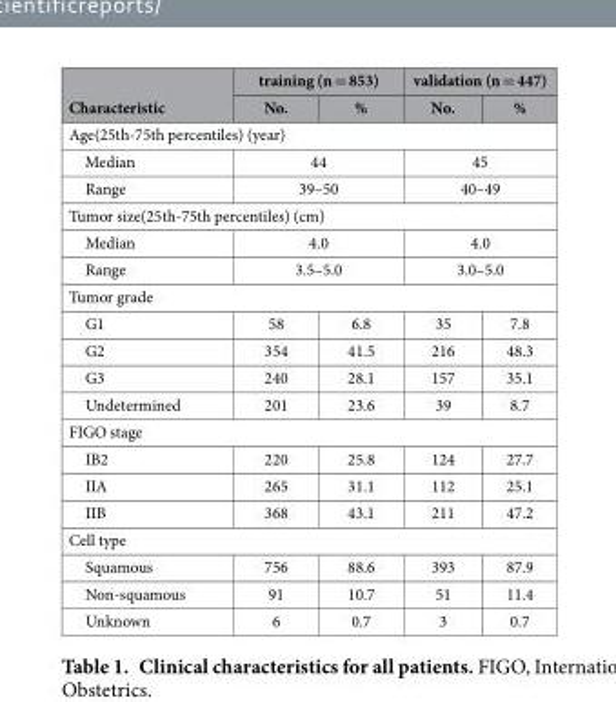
<table><thead><tr><td rowspan="2">Characteristic</td><td colspan="2">training (n = 853)</td><td colspan="2">validation (n = 447)</td></tr><tr><td>No.</td><td>%</td><td>No.</td><td>%</td></tr></thead><tbody><tr><td colspan="5">Age(25th-75th percentiles) (year)</td></tr><tr><td>Median</td><td colspan="2">44</td><td colspan="2">45</td></tr><tr><td>Range</td><td colspan="2">39–50</td><td colspan="2">40–49</td></tr><tr><td colspan="5">Tumor size(25th-75th percentiles) (cm)</td></tr><tr><td>Median</td><td colspan="2">4.0</td><td colspan="2">4.0</td></tr><tr><td>Range</td><td colspan="2">3.5–5.0</td><td colspan="2">3.0–5.0</td></tr><tr><td colspan="5">Tumor grade</td></tr><tr><td>G1</td><td>58</td><td>6.8</td><td>35</td><td>7.8</td></tr><tr><td>G2</td><td>354</td><td>41.5</td><td>216</td><td>48.3</td></tr><tr><td>G3</td><td>240</td><td>28.1</td><td>157</td><td>35.1</td></tr><tr><td>Undetermined</td><td>201</td><td>23.6</td><td>39</td><td>8.7</td></tr><tr><td colspan="5">FIGO stage</td></tr><tr><td>IB2</td><td>220</td><td>25.8</td><td>124</td><td>27.7</td></tr><tr><td>IIA</td><td>265</td><td>31.1</td><td>112</td><td>25.1</td></tr><tr><td>IIB</td><td>368</td><td>43.1</td><td>211</td><td>47.2</td></tr><tr><td colspan="5">Cell type</td></tr><tr><td>Squamous</td><td>756</td><td>88.6</td><td>393</td><td>87.9</td></tr><tr><td>Non-squamous</td><td>91</td><td>10.7</td><td>51</td><td>11.4</td></tr><tr><td>Unknown</td><td>6</td><td>0.7</td><td>3</td><td>0.7</td></tr></tbody></table>